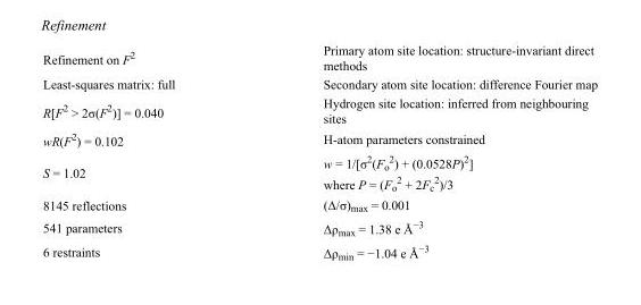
<table><tbody><tr><td>Refinement on F<sup>2</sup></td><td>Primary atom site location: structure-invariant direct methods</td></tr><tr><td>Least-squares matrix: full</td><td>Secondary atom site location: difference Fourier map</td></tr><tr><td>R[F<sup>2</sup> &gt; 2σ(F<sup>2</sup>)] = 0.040</td><td>Hydrogen site location: inferred from neighbouring sites</td></tr><tr><td>wR(F<sup>2</sup>) = 0.102</td><td>H-atom parameters constrained</td></tr><tr><td>S = 1.02</td><td>w = 1/[σ<sup>2</sup>(F<sub>o</sub> <sup>2</sup>) + (0.0528P)<sup>2</sup>] where P = (F<sub>o</sub> <sup>2</sup> + 2F<sub>c</sub> <sup>2</sup>)/3</td></tr><tr><td>8145 reflections</td><td>(Δ/σ)<sub>max</sub> = 0.001</td></tr><tr><td>541 parameters</td><td>Δρ<sub>max</sub> = 1.38 e Å<sup>−3</sup></td></tr><tr><td>6 restraints</td><td>Δρ<sub>min</sub> = −1.04 e Å<sup>−3</sup></td></tr></tbody></table>